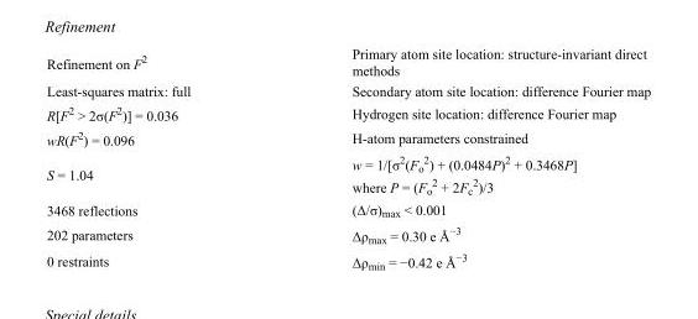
<table><tbody><tr><td>Refinement on F<sup>2</sup></td><td>Primary atom site location: structure-invariant direct methods</td></tr><tr><td>Least-squares matrix: full</td><td>Secondary atom site location: difference Fourier map</td></tr><tr><td>R[F<sup>2</sup> &gt; 2σ(F<sup>2</sup>)] = 0.036</td><td>Hydrogen site location: difference Fourier map</td></tr><tr><td>wR(F<sup>2</sup>) = 0.096</td><td>H-atom parameters constrained</td></tr><tr><td>S = 1.04</td><td>w = 1/[σ<sup>2</sup>(F<sub>o</sub> <sup>2</sup>) + (0.0484P)<sup>2</sup> + 0.3468P] where P = (F<sub>o</sub> <sup>2</sup> + 2F<sub>c</sub> <sup>2</sup>)/3</td></tr><tr><td>3468 reflections</td><td>(Δ/σ)<sub>max</sub> &lt; 0.001</td></tr><tr><td>202 parameters</td><td>Δρ<sub>max</sub> = 0.30 e Å<sup>−3</sup></td></tr><tr><td>0 restraints</td><td>Δρ<sub>min</sub> = −0.42 e Å<sup>−3</sup></td></tr></tbody></table>